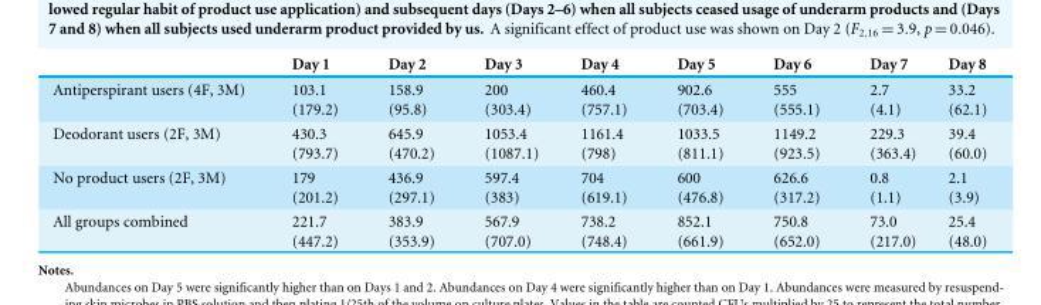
<table><thead><tr><td></td><td>Day 1</td><td>Day 2</td><td>Day 3</td><td>Day 4</td><td>Day 5</td><td>Day 6</td><td>Day 7</td><td>Day 8</td></tr></thead><tbody><tr><td>Antiperspirant users (4F, 3M)</td><td>103.1 (179.2)</td><td>158.9 (95.8)</td><td>200 (303.4)</td><td>460.4 (757.1)</td><td>902.6 (703.4)</td><td>555 (555.1)</td><td>2.7 (4.1)</td><td>33.2 (62.1)</td></tr><tr><td>Deodorant users (2F, 3M)</td><td>430.3 (793.7)</td><td>645.9 (470.2)</td><td>1053.4 (1087.1)</td><td>1161.4 (798)</td><td>1033.5 (811.1)</td><td>1149.2 (923.5)</td><td>229.3 (363.4)</td><td>39.4 (60.0)</td></tr><tr><td>No product users (2F, 3M)</td><td>179 (201.2)</td><td>436.9 (297.1)</td><td>597.4 (383)</td><td>704 (619.1)</td><td>600 (476.8)</td><td>626.6 (317.2)</td><td>0.8 (1.1)</td><td>2.1 (3.9)</td></tr><tr><td>All groups combined</td><td>221.7 (447.2)</td><td>383.9 (353.9)</td><td>567.9 (707.0)</td><td>738.2 (748.4)</td><td>852.1 (661.9)</td><td>750.8 (652.0)</td><td>73.0 (217.0)</td><td>25.4 (48.0)</td></tr></tbody></table>